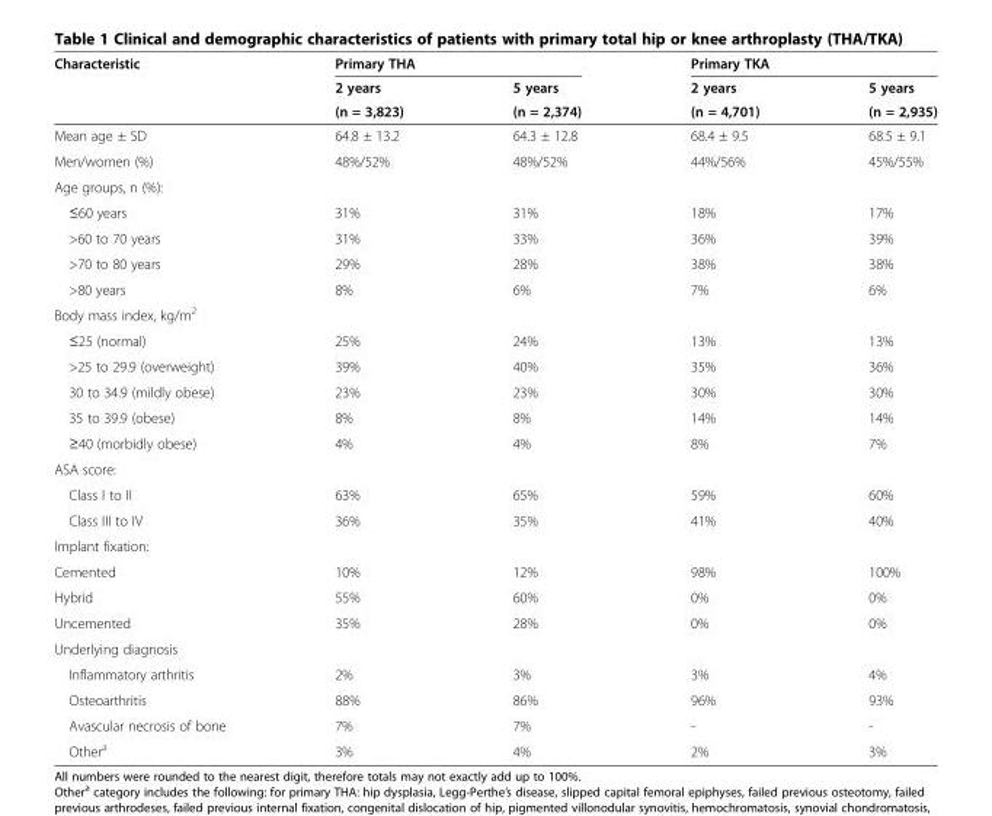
<table><thead><tr><td rowspan="3">Characteristic</td><td colspan="2">Primary THA</td><td colspan="2">Primary TKA</td></tr><tr><td rowspan="2">2 years (n = 3,823)</td><td rowspan="2">5 years (n = 2,374)</td><td rowspan="2">2 years (n = 4,701)</td><td rowspan="2">5 years (n = 2,935)</td></tr><tr></tr></thead><tbody><tr><td>Mean age ± SD</td><td>64.8 ± 13.2</td><td>64.3 ± 12.8</td><td>68.4 ± 9.5</td><td>68.5 ± 9.1</td></tr><tr><td>Men/women (%)</td><td>48%/52%</td><td>48%/52%</td><td>44%/56%</td><td>45%/55%</td></tr><tr><td colspan="5">Age groups, n (%):</td></tr><tr><td>≤60 years</td><td>31%</td><td>31%</td><td>18%</td><td>17%</td></tr><tr><td>&gt;60 to 70 years</td><td>31%</td><td>33%</td><td>36%</td><td>39%</td></tr><tr><td>&gt;70 to 80 years</td><td>29%</td><td>28%</td><td>38%</td><td>38%</td></tr><tr><td>&gt;80 years</td><td>8%</td><td>6%</td><td>7%</td><td>6%</td></tr><tr><td colspan="5">Body mass index, kg/m<sup>2</sup></td></tr><tr><td>≤25 (normal)</td><td>25%</td><td>24%</td><td>13%</td><td>13%</td></tr><tr><td>&gt;25 to 29.9 (overweight)</td><td>39%</td><td>40%</td><td>35%</td><td>36%</td></tr><tr><td>30 to 34.9 (mildly obese)</td><td>23%</td><td>23%</td><td>30%</td><td>30%</td></tr><tr><td>35 to 39.9 (obese)</td><td>8%</td><td>8%</td><td>14%</td><td>14%</td></tr><tr><td>≥40 (morbidly obese)</td><td>4%</td><td>4%</td><td>8%</td><td>7%</td></tr><tr><td colspan="5">ASA score:</td></tr><tr><td>Class I to II</td><td>63%</td><td>65%</td><td>59%</td><td>60%</td></tr><tr><td>Class III to IV</td><td>36%</td><td>35%</td><td>41%</td><td>40%</td></tr><tr><td colspan="5">Implant fixation:</td></tr><tr><td>Cemented</td><td>10%</td><td>12%</td><td>98%</td><td>100%</td></tr><tr><td>Hybrid</td><td>55%</td><td>60%</td><td>0%</td><td>0%</td></tr><tr><td>Uncemented</td><td>35%</td><td>28%</td><td>0%</td><td>0%</td></tr><tr><td colspan="5">Underlying diagnosis</td></tr><tr><td>Inflammatory arthritis</td><td>2%</td><td>3%</td><td>3%</td><td>4%</td></tr><tr><td>Osteoarthritis</td><td>88%</td><td>86%</td><td>96%</td><td>93%</td></tr><tr><td>Avascular necrosis of bone</td><td>7%</td><td>7%</td><td>-</td><td>-</td></tr><tr><td>Other<sup>a</sup></td><td>3%</td><td>4%</td><td>2%</td><td>3%</td></tr></tbody></table>